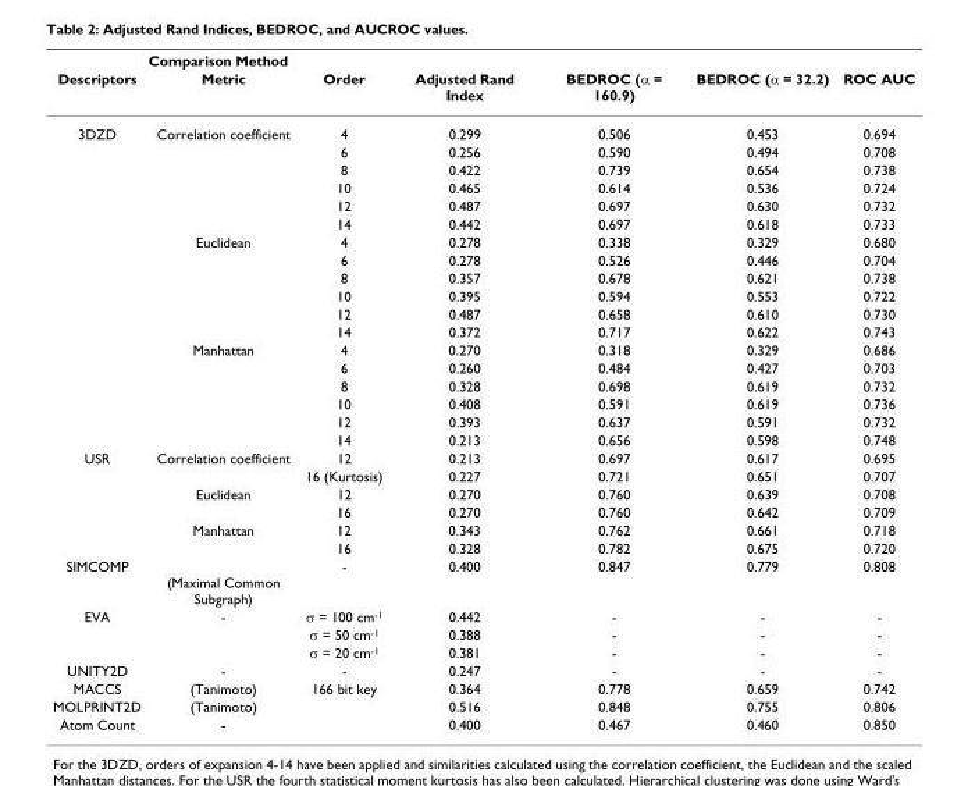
<table><thead><tr><td colspan="3">Comparison Method</td><td rowspan="2">Adjusted Rand Index</td><td rowspan="2">BEDROC (α = 160.9)</td><td rowspan="2">BEDROC (α = 32.2)</td><td rowspan="2">ROC AUC</td></tr><tr><td>Descriptors</td><td>Metric</td><td>Order</td></tr></thead><tbody><tr><td rowspan="18">3DZD</td><td>Correlation coefficient</td><td>4</td><td>0.299</td><td>0.506</td><td>0.453</td><td>0.694</td></tr><tr><td></td><td>6</td><td>0.256</td><td>0.590</td><td>0.494</td><td>0.708</td></tr><tr><td></td><td>8</td><td>0.422</td><td>0.739</td><td>0.654</td><td>0.738</td></tr><tr><td></td><td>10</td><td>0.465</td><td>0.614</td><td>0.536</td><td>0.724</td></tr><tr><td></td><td>12</td><td>0.487</td><td>0.697</td><td>0.630</td><td>0.732</td></tr><tr><td></td><td>14</td><td>0.442</td><td>0.697</td><td>0.618</td><td>0.733</td></tr><tr><td>Euclidean</td><td>4</td><td>0.278</td><td>0.338</td><td>0.329</td><td>0.680</td></tr><tr><td></td><td>6</td><td>0.278</td><td>0.526</td><td>0.446</td><td>0.704</td></tr><tr><td></td><td>8</td><td>0.357</td><td>0.678</td><td>0.621</td><td>0.738</td></tr><tr><td></td><td>10</td><td>0.395</td><td>0.594</td><td>0.553</td><td>0.722</td></tr><tr><td></td><td>12</td><td>0.487</td><td>0.658</td><td>0.610</td><td>0.730</td></tr><tr><td></td><td>14</td><td>0.372</td><td>0.717</td><td>0.622</td><td>0.743</td></tr><tr><td>Manhattan</td><td>4</td><td>0.270</td><td>0.318</td><td>0.329</td><td>0.686</td></tr><tr><td></td><td>6</td><td>0.260</td><td>0.484</td><td>0.427</td><td>0.703</td></tr><tr><td></td><td>8</td><td>0.328</td><td>0.698</td><td>0.619</td><td>0.732</td></tr><tr><td></td><td>10</td><td>0.408</td><td>0.591</td><td>0.619</td><td>0.736</td></tr><tr><td></td><td>12</td><td>0.393</td><td>0.637</td><td>0.591</td><td>0.732</td></tr><tr><td></td><td>14</td><td>0.213</td><td>0.656</td><td>0.598</td><td>0.748</td></tr><tr><td rowspan="6">USR</td><td>Correlation coefficient</td><td>12</td><td>0.213</td><td>0.697</td><td>0.617</td><td>0.695</td></tr><tr><td></td><td>16 (Kurtosis)</td><td>0.227</td><td>0.721</td><td>0.651</td><td>0.707</td></tr><tr><td>Euclidean</td><td>12</td><td>0.270</td><td>0.760</td><td>0.639</td><td>0.708</td></tr><tr><td></td><td>16</td><td>0.270</td><td>0.760</td><td>0.642</td><td>0.709</td></tr><tr><td>Manhattan</td><td>12</td><td>0.343</td><td>0.762</td><td>0.661</td><td>0.718</td></tr><tr><td></td><td>16</td><td>0.328</td><td>0.782</td><td>0.675</td><td>0.720</td></tr><tr><td>SIMCOMP</td><td>(Maximal Common Subgraph)</td><td>-</td><td>0.400</td><td>0.847</td><td>0.779</td><td>0.808</td></tr><tr><td rowspan="3">EVA</td><td>-</td><td>σ = 100 cm<sup>-1</sup></td><td>0.442</td><td>-</td><td>-</td><td>-</td></tr><tr><td></td><td>σ = 50 cm<sup>-1</sup></td><td>0.388</td><td>-</td><td>-</td><td>-</td></tr><tr><td></td><td>σ = 20 cm<sup>-1</sup></td><td>0.381</td><td>-</td><td>-</td><td>-</td></tr><tr><td>UNITY2D</td><td>-</td><td>-</td><td>0.247</td><td>-</td><td>-</td><td>-</td></tr><tr><td>MACCS</td><td>(Tanimoto)</td><td>166 bit key</td><td>0.364</td><td>0.778</td><td>0.659</td><td>0.742</td></tr><tr><td>MOLPRINT2D</td><td>(Tanimoto)</td><td></td><td>0.516</td><td>0.848</td><td>0.755</td><td>0.806</td></tr><tr><td>Atom Count</td><td>-</td><td></td><td>0.400</td><td>0.467</td><td>0.460</td><td>0.850</td></tr></tbody></table>